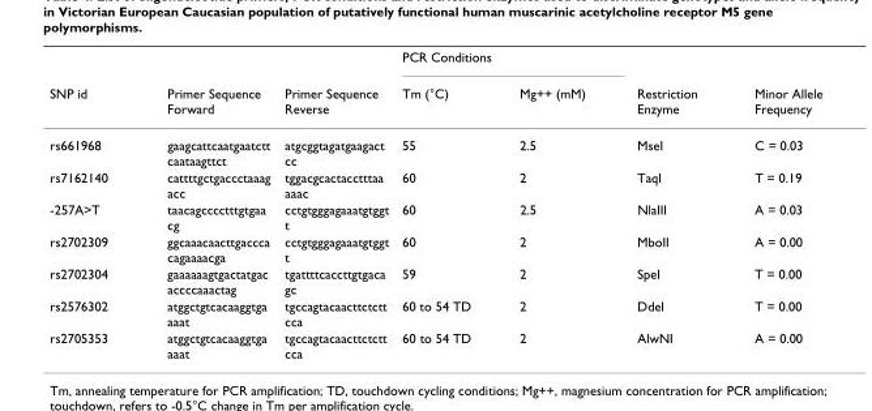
<table><thead><tr><td rowspan="2">SNP id</td><td rowspan="2">Primer Sequence Forward</td><td rowspan="2">Primer Sequence Reverse</td><td colspan="2">PCR Conditions</td><td rowspan="2">Restriction Enzyme</td><td rowspan="2">Minor Allele Frequency</td></tr><tr><td>Tm (°C)</td><td>Mg++ (mM)</td></tr></thead><tbody><tr><td>rs661968</td><td>gaagcattcaatgaatctt caataagttct</td><td>atgcggtagatgaagact cc</td><td>55</td><td>2.5</td><td>MseI</td><td>C = 0.03</td></tr><tr><td>rs7162140</td><td>cattttgctgaccctaaag acc</td><td>tggacgcactacctttaa aaac</td><td>60</td><td>2</td><td>TaqI</td><td>T = 0.19</td></tr><tr><td>-257A&gt;T</td><td>taacagcccctttgtgaa cg</td><td>cctgtgggagaaatgtggt t</td><td>60</td><td>2.5</td><td>NlaIII</td><td>A = 0.03</td></tr><tr><td>rs2702309</td><td>ggcaaacaacttgaccca cagaaaacga</td><td>cctgtgggagaaatgtggt t</td><td>60</td><td>2</td><td>MboII</td><td>A = 0.00</td></tr><tr><td>rs2702304</td><td>gaaaaaagtgactatgac accccaaactag</td><td>tgattttcaccttgtgaca gc</td><td>59</td><td>2</td><td>SpeI</td><td>T = 0.00</td></tr><tr><td>rs2576302</td><td>atggctgtcacaaggtga aaat</td><td>tgccagtacaacttctctt cca</td><td>60 to 54 TD</td><td>2</td><td>DdeI</td><td>T = 0.00</td></tr><tr><td>rs2705353</td><td>atggctgtcacaaggtga aaat</td><td>tgccagtacaacttctctt cca</td><td>60 to 54 TD</td><td>2</td><td>AlwNI</td><td>A = 0.00</td></tr></tbody></table>